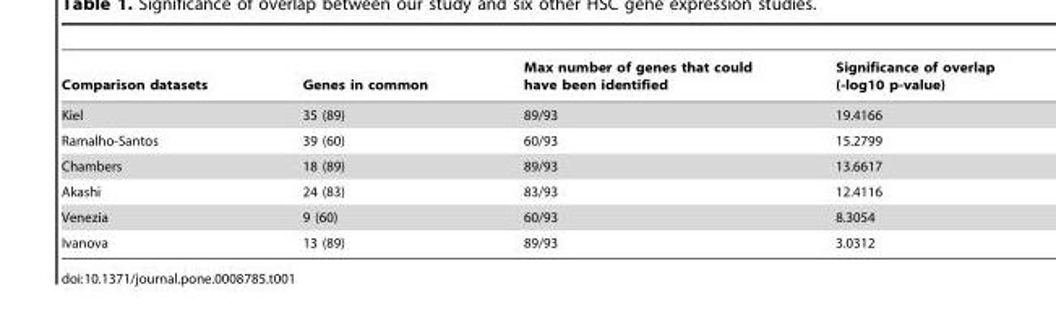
<table><thead><tr><td>Comparison datasets</td><td>Genes in common</td><td>Max number of genes that could have been identified</td><td>Significance of overlap (-log10 p-value)</td></tr></thead><tbody><tr><td>Kiel</td><td>35 (89)</td><td>89/93</td><td>19.4166</td></tr><tr><td>Ramalho-Santos</td><td>39 (60)</td><td>60/93</td><td>15.2799</td></tr><tr><td>Chambers</td><td>18 (89)</td><td>89/93</td><td>13.6617</td></tr><tr><td>Akashi</td><td>24 (83)</td><td>83/93</td><td>12.4116</td></tr><tr><td>Venezia</td><td>9 (60)</td><td>60/93</td><td>8.3054</td></tr><tr><td>Ivanova</td><td>13 (89)</td><td>89/93</td><td>3.0312</td></tr></tbody></table>